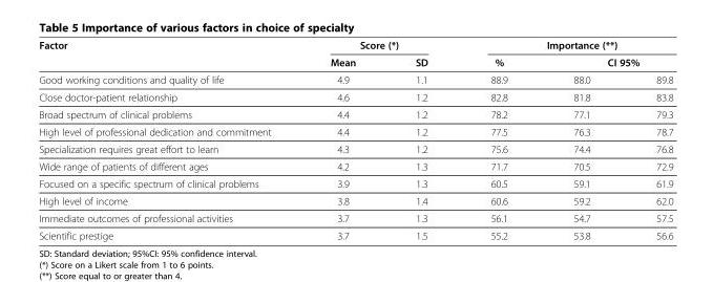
<table><thead><tr><td rowspan="3">Factor Good working conditions and quality of life</td><td colspan="2">Score (*)</td><td colspan="3">Importance (**)</td></tr><tr><td rowspan="2">Mean 4.9</td><td rowspan="2">SD 1.1</td><td rowspan="2">% 88.9</td><td colspan="2">CI 95%</td></tr><tr><td>88.0</td><td>89.8</td></tr></thead><tbody><tr><td>Close doctor-patient relationship</td><td>4.6</td><td>1.2</td><td>82.8</td><td>81.8</td><td>83.8</td></tr><tr><td>Broad spectrum of clinical problems</td><td>4.4</td><td>1.2</td><td>78.2</td><td>77.1</td><td>79.3</td></tr><tr><td>High level of professional dedication and commitment</td><td>4.4</td><td>1.2</td><td>77.5</td><td>76.3</td><td>78.7</td></tr><tr><td>Specialization requires great effort to learn</td><td>4.3</td><td>1.2</td><td>75.6</td><td>74.4</td><td>76.8</td></tr><tr><td>Wide range of patients of different ages</td><td>4.2</td><td>1.3</td><td>71.7</td><td>70.5</td><td>72.9</td></tr><tr><td>Focused on a specific spectrum of clinical problems</td><td>3.9</td><td>1.3</td><td>60.5</td><td>59.1</td><td>61.9</td></tr><tr><td>High level of income</td><td>3.8</td><td>1.4</td><td>60.6</td><td>59.2</td><td>62.0</td></tr><tr><td>Immediate outcomes of professional activities</td><td>3.7</td><td>1.3</td><td>56.1</td><td>54.7</td><td>57.5</td></tr><tr><td>Scientific prestige</td><td>3.7</td><td>1.5</td><td>55.2</td><td>53.8</td><td>56.6</td></tr></tbody></table>